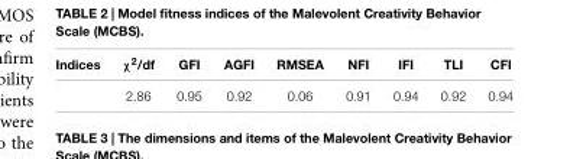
<table><thead><tr><td>Indices</td><td>χ<sup>2</sup>/df</td><td>GFI</td><td>AGFI</td><td>RMSEA</td><td>NFI</td><td>IFI</td><td>TLI</td><td>CFI</td></tr></thead><tbody><tr><td></td><td>2.86</td><td>0.95</td><td>0.92</td><td>0.06</td><td>0.91</td><td>0.94</td><td>0.92</td><td>0.94</td></tr></tbody></table>